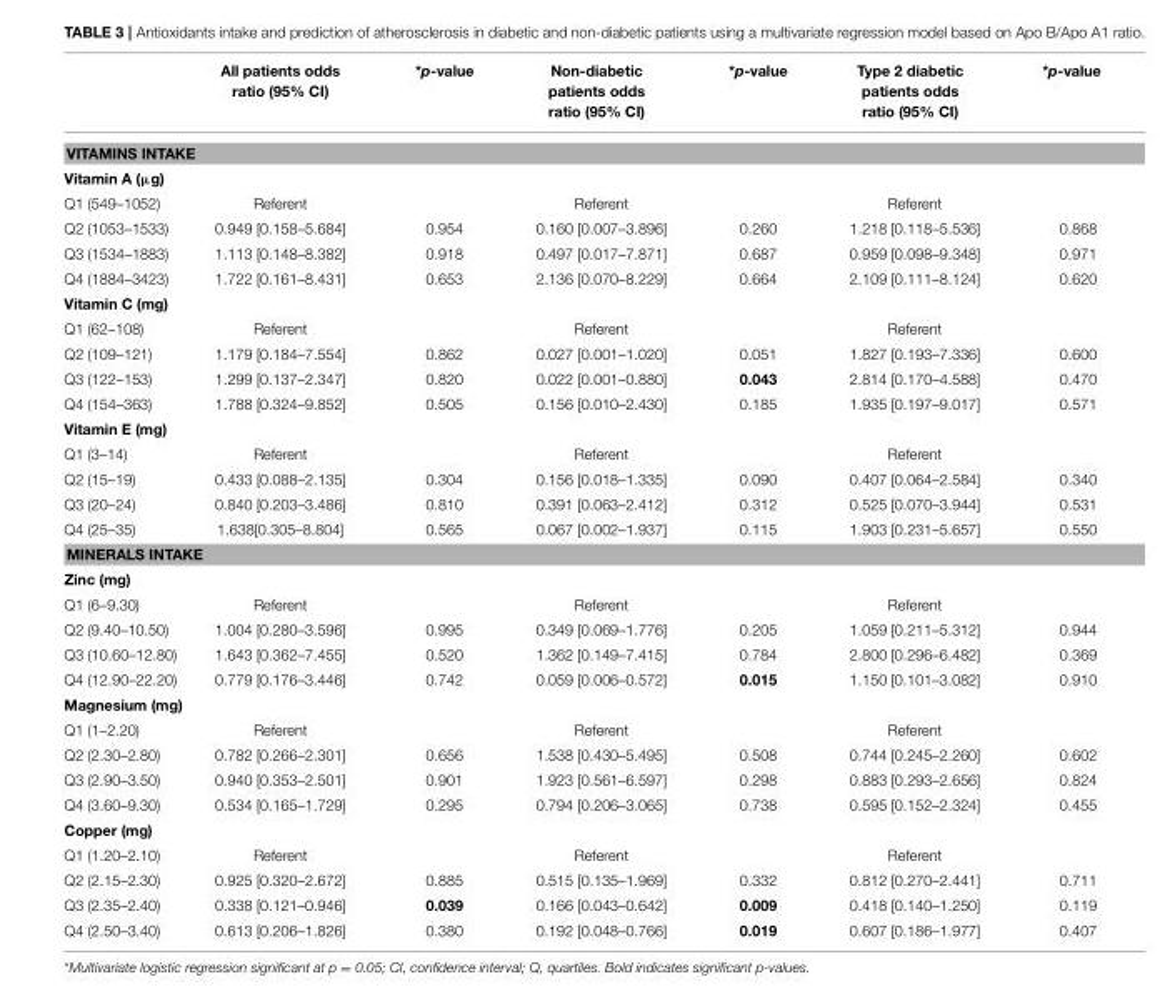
<table><thead><tr><td></td><td>All patients odds ratio (95% CI)</td><td>*p-value</td><td>Non-diabetic patients odds ratio (95% CI)</td><td>*p-value</td><td>Type 2 diabetic patients odds ratio (95% CI)</td><td>*p-value</td></tr></thead><tbody><tr><td colspan="7">VITAMINS INTAKE</td></tr><tr><td colspan="7">Vitamin A (µg)</td></tr><tr><td>Q1 (549–1052)</td><td>Referent</td><td></td><td>Referent</td><td></td><td>Referent</td><td></td></tr><tr><td>Q2 (1053–1533)</td><td>0.949 [0.158–5.684]</td><td>0.954</td><td>0.160 [0.007–3.896]</td><td>0.260</td><td>1.218 [0.118–5.536]</td><td>0.868</td></tr><tr><td>Q3 (1534–1883)</td><td>1.113 [0.148–8.382]</td><td>0.918</td><td>0.497 [0.017–7.871]</td><td>0.687</td><td>0.959 [0.098–9.348]</td><td>0.971</td></tr><tr><td>Q4 (1884–3423)</td><td>1.722 [0.161–8.431]</td><td>0.653</td><td>2.136 [0.070–8.229]</td><td>0.664</td><td>2.109 [0.111–8.124]</td><td>0.620</td></tr><tr><td colspan="7">Vitamin C (mg)</td></tr><tr><td>Q1 (62–108)</td><td>Referent</td><td></td><td>Referent</td><td></td><td>Referent</td><td></td></tr><tr><td>Q2 (109–121)</td><td>1.179 [0.184–7.554]</td><td>0.862</td><td>0.027 [0.001–1.020]</td><td>0.051</td><td>1.827 [0.193–7.336]</td><td>0.600</td></tr><tr><td>Q3 (122–153)</td><td>1.299 [0.137–2.347]</td><td>0.820</td><td>0.022 [0.001–0.880]</td><td>0.043</td><td>2.814 [0.170–4.588]</td><td>0.470</td></tr><tr><td>Q4 (154–363)</td><td>1.788 [0.324–9.852]</td><td>0.505</td><td>0.156 [0.010–2.430]</td><td>0.185</td><td>1.935 [0.197–9.017]</td><td>0.571</td></tr><tr><td colspan="7">Vitamin E (mg)</td></tr><tr><td>Q1 (3–14)</td><td>Referent</td><td></td><td>Referent</td><td></td><td>Referent</td><td></td></tr><tr><td>Q2 (15–19)</td><td>0.433 [0.088–2.135]</td><td>0.304</td><td>0.156 [0.018–1.335]</td><td>0.090</td><td>0.407 [0.064–2.584]</td><td>0.340</td></tr><tr><td>Q3 (20–24)</td><td>0.840 [0.203–3.486]</td><td>0.810</td><td>0.391 [0.063–2.412]</td><td>0.312</td><td>0.525 [0.070–3.944]</td><td>0.531</td></tr><tr><td>Q4 (25–35)</td><td>1.638[0.305–8.804]</td><td>0.565</td><td>0.067 [0.002–1.937]</td><td>0.115</td><td>1.903 [0.231–5.657]</td><td>0.550</td></tr><tr><td colspan="7">MINERALS INTAKE</td></tr><tr><td colspan="7">Zinc (mg)</td></tr><tr><td>Q1 (6–9.30)</td><td>Referent</td><td></td><td>Referent</td><td></td><td>Referent</td><td></td></tr><tr><td>Q2 (9.40–10.50)</td><td>1.004 [0.280–3.596]</td><td>0.995</td><td>0.349 [0.069–1.776]</td><td>0.205</td><td>1.059 [0.211–5.312]</td><td>0.944</td></tr><tr><td>Q3 (10.60–12.80)</td><td>1.643 [0.362–7.455]</td><td>0.520</td><td>1.362 [0.149–7.415]</td><td>0.784</td><td>2.800 [0.296–6.482]</td><td>0.369</td></tr><tr><td>Q4 (12.90–22.20)</td><td>0.779 [0.176–3.446]</td><td>0.742</td><td>0.059 [0.006–0.572]</td><td>0.015</td><td>1.150 [0.101–3.082]</td><td>0.910</td></tr><tr><td colspan="7">Magnesium (mg)</td></tr><tr><td>Q1 (1–2.20)</td><td>Referent</td><td></td><td>Referent</td><td></td><td>Referent</td><td></td></tr><tr><td>Q2 (2.30–2.80)</td><td>0.782 [0.266–2.301]</td><td>0.656</td><td>1.538 [0.430–5.495]</td><td>0.508</td><td>0.744 [0.245–2.260]</td><td>0.602</td></tr><tr><td>Q3 (2.90–3.50)</td><td>0.940 [0.353–2.501]</td><td>0.901</td><td>1.923 [0.561–6.597]</td><td>0.298</td><td>0.883 [0.293–2.656]</td><td>0.824</td></tr><tr><td>Q4 (3.60–9.30)</td><td>0.534 [0.165–1.729]</td><td>0.295</td><td>0.794 [0.206–3.065]</td><td>0.738</td><td>0.595 [0.152–2.324]</td><td>0.455</td></tr><tr><td colspan="7">Copper (mg)</td></tr><tr><td>Q1 (1.20–2.10)</td><td>Referent</td><td></td><td>Referent</td><td></td><td>Referent</td><td></td></tr><tr><td>Q2 (2.15–2.30)</td><td>0.925 [0.320–2.672]</td><td>0.885</td><td>0.515 [0.135–1.969]</td><td>0.332</td><td>0.812 [0.270–2.441]</td><td>0.711</td></tr><tr><td>Q3 (2.35–2.40)</td><td>0.338 [0.121–0.946]</td><td>0.039</td><td>0.166 [0.043–0.642]</td><td>0.009</td><td>0.418 [0.140–1.250]</td><td>0.119</td></tr><tr><td>Q4 (2.50–3.40)</td><td>0.613 [0.206–1.826]</td><td>0.380</td><td>0.192 [0.048–0.766]</td><td>0.019</td><td>0.607 [0.186–1.977]</td><td>0.407</td></tr></tbody></table>